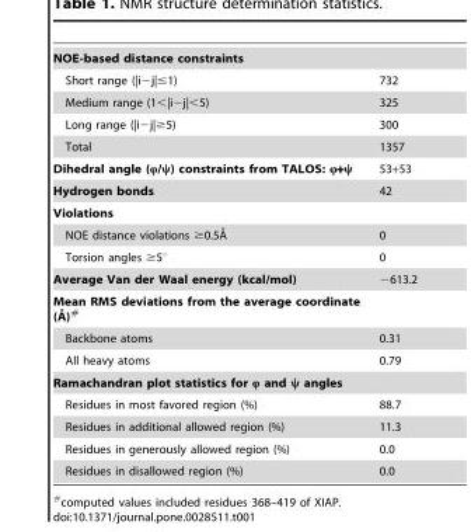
<table><tbody><tr><td colspan="2">NOE-based distance constraints</td></tr><tr><td>Short range (|i−j|≤1)</td><td>732</td></tr><tr><td>Medium range (1&lt;|i−j|&lt;5)</td><td>325</td></tr><tr><td>Long range (|i−j|≥5)</td><td>300</td></tr><tr><td>Total</td><td>1357</td></tr><tr><td>Dihedral angle (ϕ/ψ) constraints from TALOS: ϕ+ψ</td><td>53+53</td></tr><tr><td>Hydrogen bonds</td><td>42</td></tr><tr><td colspan="2">Violations</td></tr><tr><td>NOE distance violations $0.5A˚</td><td>0</td></tr><tr><td>Torsion angles ≥5°</td><td>0</td></tr><tr><td>Average Van der Waal energy (kcal/mol)</td><td>−613.2</td></tr><tr><td colspan="2">Mean RMS deviations from the average coordinate (A˚)#</td></tr><tr><td>Backbone atoms</td><td>0.31</td></tr><tr><td>All heavy atoms</td><td>0.79</td></tr><tr><td colspan="2">Ramachandran plot statistics for ϕ and ψ angles</td></tr><tr><td>Residues in most favored region (%)</td><td>88.7</td></tr><tr><td>Residues in additional allowed region (%)</td><td>11.3</td></tr><tr><td>Residues in generously allowed region (%)</td><td>0.0</td></tr><tr><td>Residues in disallowed region (%)</td><td>0.0</td></tr></tbody></table>